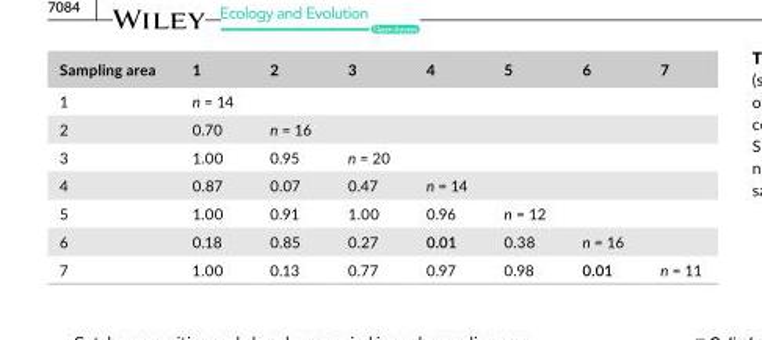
<table><thead><tr><td>Sampling area</td><td>1</td><td>2</td><td>3</td><td>4</td><td>5</td><td>6</td><td>7</td></tr></thead><tbody><tr><td>1</td><td>n = 14</td><td></td><td></td><td></td><td></td><td></td><td></td></tr><tr><td>2</td><td>0.70</td><td>n = 16</td><td></td><td></td><td></td><td></td><td></td></tr><tr><td>3</td><td>1.00</td><td>0.95</td><td>n = 20</td><td></td><td></td><td></td><td></td></tr><tr><td>4</td><td>0.87</td><td>0.07</td><td>0.47</td><td>n = 14</td><td></td><td></td><td></td></tr><tr><td>5</td><td>1.00</td><td>0.91</td><td>1.00</td><td>0.96</td><td>n = 12</td><td></td><td></td></tr><tr><td>6</td><td>0.18</td><td>0.85</td><td>0.27</td><td>0.01</td><td>0.38</td><td>n = 16</td><td></td></tr><tr><td>7</td><td>1.00</td><td>0.13</td><td>0.77</td><td>0.97</td><td>0.98</td><td>0.01</td><td>n = 11</td></tr></tbody></table>